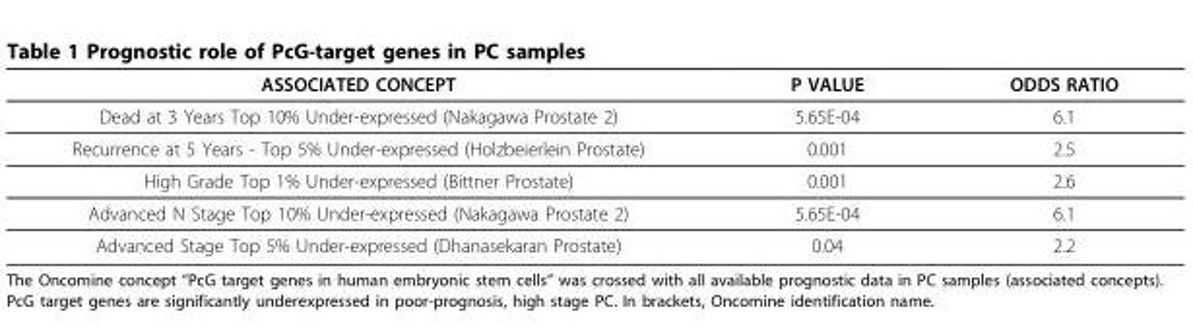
<table><thead><tr><td>ASSOCIATED CONCEPT</td><td>P VALUE</td><td>ODDS RATIO</td></tr></thead><tbody><tr><td>Dead at 3 Years Top 10% Under-expressed (Nakagawa Prostate 2)</td><td>5.65E-04</td><td>6.1</td></tr><tr><td>Recurrence at 5 Years - Top 5% Under-expressed (Holzbeierlein Prostate)</td><td>0.001</td><td>2.5</td></tr><tr><td>High Grade Top 1% Under-expressed (Bittner Prostate)</td><td>0.001</td><td>2.6</td></tr><tr><td>Advanced N Stage Top 10% Under-expressed (Nakagawa Prostate 2)</td><td>5.65E-04</td><td>6.1</td></tr><tr><td>Advanced Stage Top 5% Under-expressed (Dhanasekaran Prostate)</td><td>0.04</td><td>2.2</td></tr></tbody></table>